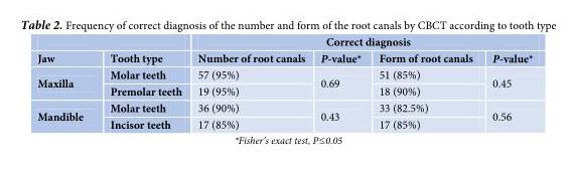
<table><thead><tr><td rowspan="2">Jaw</td><td rowspan="2">Tooth type</td><td colspan="4">Correct diagnosis</td></tr><tr><td>Number of root canals</td><td>P-value*</td><td>Form of root canals</td><td>P-value*</td></tr></thead><tbody><tr><td rowspan="2">Maxilla</td><td>Molar teeth</td><td>57 (95%)</td><td rowspan="2">0.69</td><td>51 (85%)</td><td rowspan="2">0.45</td></tr><tr><td>Premolar teeth</td><td>19 (95%)</td><td>18 (90%)</td></tr><tr><td rowspan="2">Mandible</td><td>Molar teeth</td><td>36 (90%)</td><td rowspan="2">0.43</td><td>33 (82.5%)</td><td rowspan="2">0.56</td></tr><tr><td>Incisor teeth</td><td>17 (85%)</td><td>17 (85%)</td></tr></tbody></table>